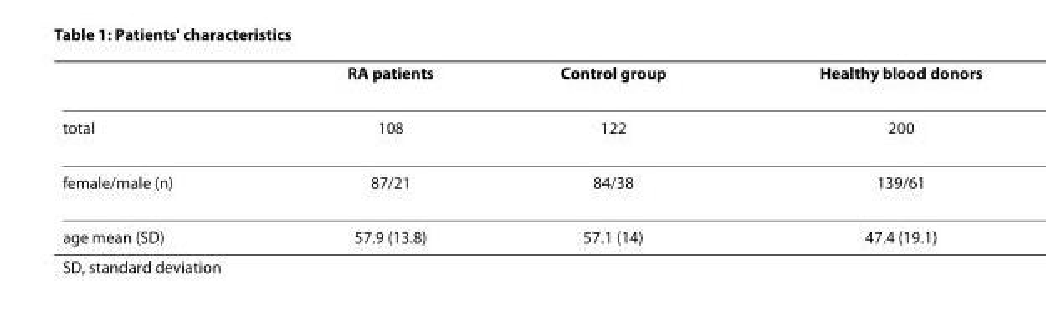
<table><thead><tr><td></td><td>RA patients</td><td>Control group</td><td>Healthy blood donors</td></tr></thead><tbody><tr><td>total</td><td>108</td><td>122</td><td>200</td></tr><tr><td>female/male (n)</td><td>87/21</td><td>84/38</td><td>139/61</td></tr><tr><td>age mean (SD)</td><td>57.9 (13.8)</td><td>57.1 (14)</td><td>47.4 (19.1)</td></tr></tbody></table>